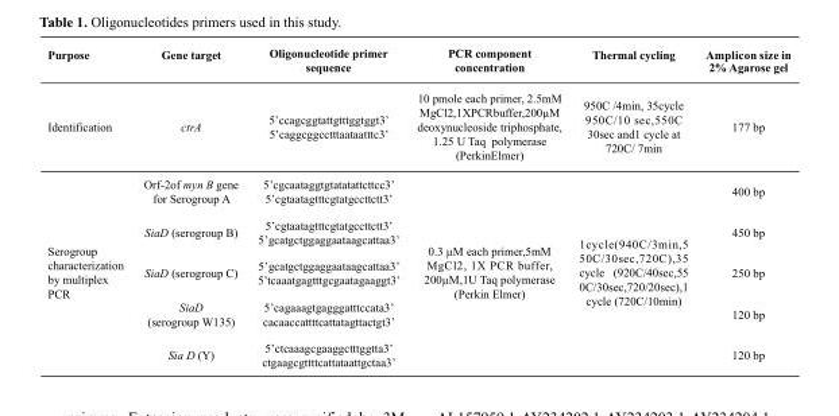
<table><thead><tr><td>Purpose</td><td>Gene target</td><td>Oligonucleotide primer sequence</td><td>PCR component concentration</td><td>Thermal cycling</td><td>Amplicon size in 2% Agarose gel</td></tr></thead><tbody><tr><td>Identification</td><td>ctrA</td><td>5’ccagcggtattgtttggtggt3’ 5’caggcggcctttaataatttc3’</td><td>10 pmole each primer, 2.5mM MgCl2,1XPCRbuffer,200µM deoxynucleoside triphosphate, 1.25 U Taq polymerase (PerkinElmer)</td><td>950C /4min, 35cycle 950C/10 sec,550C 30sec and1 cycle at 720C/ 7min</td><td>177 bp</td></tr><tr><td rowspan="5">Serogroup characterization by multiplex PCR</td><td>Orf-2of myn B gene for Serogroup A</td><td>5’cgcaataggtgtatatattcttcc3’ 5’cgtaatagtttcgtatgccttctt3’</td><td rowspan="5">0.3 µM each primer,5mM MgCl2, 1X PCR buffer, 200µM,1U Taq polymerase (Perkin Elmer)</td><td rowspan="5">1cycle(940C/3min,5 50C/30sec,720C),35 cycle (920C/40sec,55 0C/30sec,720/20sec),1 cycle (720C/10min)</td><td>400 bp</td></tr><tr><td>SiaD (serogroup B)</td><td>5’cgtaatagtttcgtatgccttctt3’ 5’gcatgctggaggaataagcattaa3’</td><td>450 bp</td></tr><tr><td>SiaD (serogroup C)</td><td>5’gcatgctggaggaataagcattaa3’ 5’tcaaatgagtttgcgaatagaaggt3’</td><td>250 bp</td></tr><tr><td>SiaD (serogroup W135)</td><td>5’cagaaagtgagggatttccata3’ cacaaccattttcattatagttactgt3’</td><td>120 bp</td></tr><tr><td>Sia D (Y)</td><td>5’ctcaaagcgaaggctttggtta3’ ctgaagcgttttcattataattgctaa3’</td><td>120 bp</td></tr></tbody></table>